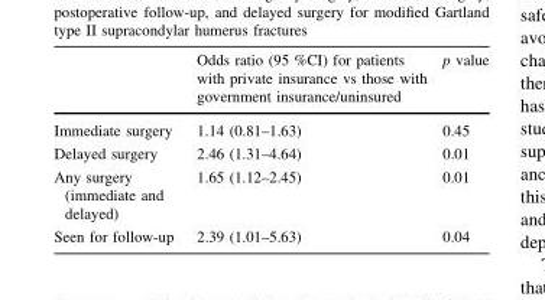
<table><thead><tr><td></td><td>Odds ratio (95 %CI) for patients with private insurance vs those with government insurance/uninsured</td><td>p value</td></tr></thead><tbody><tr><td>Immediate surgery</td><td>1.14 (0.81–1.63)</td><td>0.45</td></tr><tr><td>Delayed surgery</td><td>2.46 (1.31–4.64)</td><td>0.01</td></tr><tr><td>Any surgery (immediate and delayed)</td><td>1.65 (1.12–2.45)</td><td>0.01</td></tr><tr><td>Seen for follow-up</td><td>2.39 (1.01–5.63)</td><td>0.04</td></tr></tbody></table>